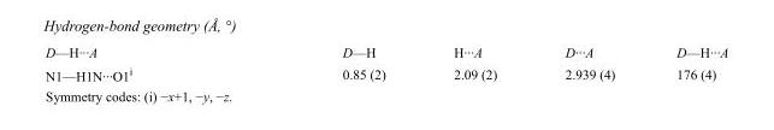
<table><tbody><tr><td>D—H···A</td><td>D—H</td><td>H···A</td><td>D···A</td><td>D—H···A</td></tr><tr><td>N1—H1N···O1<sup>i</sup></td><td>0.85 (2)</td><td>2.09 (2)</td><td>2.939 (4)</td><td>176 (4)</td></tr></tbody></table>